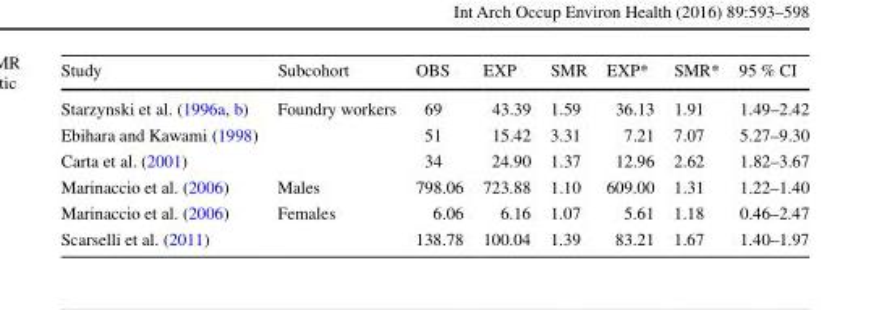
<table><thead><tr><td>Study</td><td>Subcohort</td><td>OBS</td><td>EXP</td><td>SMR</td><td>EXP*</td><td>SMR*</td><td>95 % CI</td></tr></thead><tbody><tr><td>Starzynski et al. (1996a, b)</td><td>Foundry workers</td><td>69</td><td>43.39</td><td>1.59</td><td>36.13</td><td>1.91</td><td>1.49–2.42</td></tr><tr><td>Ebihara and Kawami (1998)</td><td></td><td>51</td><td>15.42</td><td>3.31</td><td>7.21</td><td>7.07</td><td>5.27–9.30</td></tr><tr><td>Carta et al. (2001)</td><td></td><td>34</td><td>24.90</td><td>1.37</td><td>12.96</td><td>2.62</td><td>1.82–3.67</td></tr><tr><td>Marinaccio et al. (2006)</td><td>Males</td><td>798.06</td><td>723.88</td><td>1.10</td><td>609.00</td><td>1.31</td><td>1.22–1.40</td></tr><tr><td>Marinaccio et al. (2006)</td><td>Females</td><td>6.06</td><td>6.16</td><td>1.07</td><td>5.61</td><td>1.18</td><td>0.46–2.47</td></tr><tr><td>Scarselli et al. (2011)</td><td></td><td>138.78</td><td>100.04</td><td>1.39</td><td>83.21</td><td>1.67</td><td>1.40–1.97</td></tr></tbody></table>